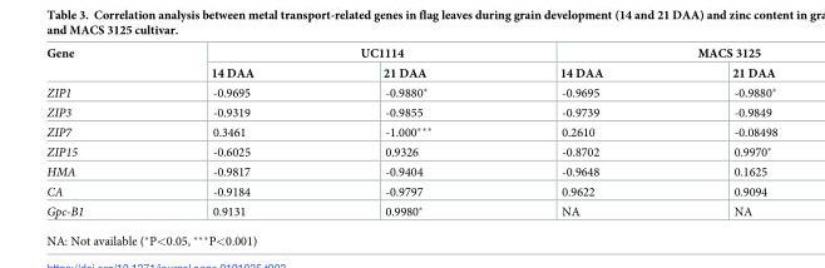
<table><thead><tr><td rowspan="2">Gene</td><td colspan="2">UC1114</td><td colspan="2">MACS 3125</td></tr><tr><td>14 DAA</td><td>21 DAA</td><td>14 DAA</td><td>21 DAA</td></tr></thead><tbody><tr><td>ZIP1</td><td>-0.9695</td><td>-0.9880*</td><td>-0.9695</td><td>-0.9880*</td></tr><tr><td>ZIP3</td><td>-0.9319</td><td>-0.9855</td><td>-0.9739</td><td>-0.9849</td></tr><tr><td>ZIP7</td><td>0.3461</td><td>-1.000***</td><td>0.2610</td><td>-0.08498</td></tr><tr><td>ZIP15</td><td>-0.6025</td><td>0.9326</td><td>-0.8702</td><td>0.9970*</td></tr><tr><td>HMA</td><td>-0.9817</td><td>-0.9404</td><td>-0.9648</td><td>0.1625</td></tr><tr><td>CA</td><td>-0.9184</td><td>-0.9797</td><td>0.9622</td><td>0.9094</td></tr><tr><td>Gpc-B1</td><td>0.9131</td><td>0.9980*</td><td>NA</td><td>NA</td></tr></tbody></table>